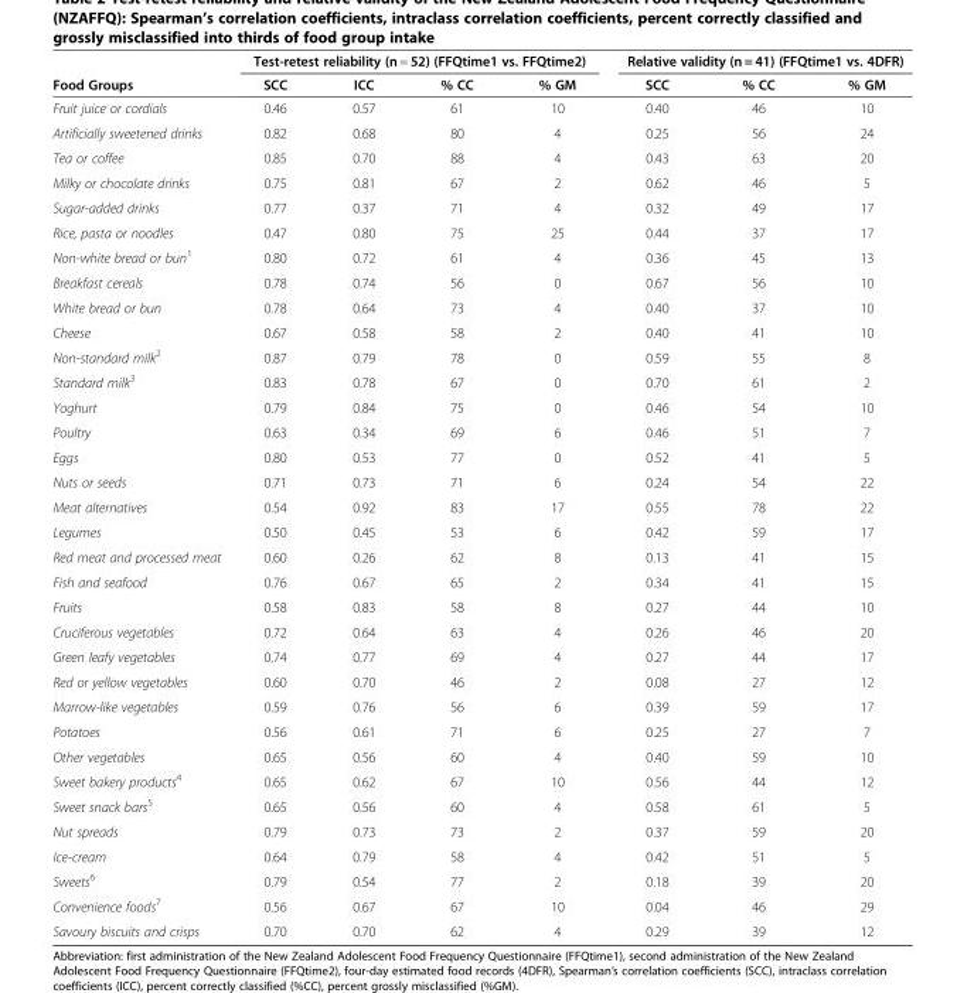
<table><thead><tr><td rowspan="2">Food Groups</td><td colspan="4">Test-retest reliability (n = 52) (FFQtime1 vs. FFQtime2)</td><td colspan="3">Relative validity (n = 41) (FFQtime1 vs. 4DFR)</td></tr><tr><td>SCC</td><td>ICC</td><td>% CC</td><td>% GM</td><td>SCC</td><td>% CC</td><td>% GM</td></tr></thead><tbody><tr><td>Fruit juice or cordials</td><td>0.46</td><td>0.57</td><td>61</td><td>10</td><td>0.40</td><td>46</td><td>10</td></tr><tr><td>Artificially sweetened drinks</td><td>0.82</td><td>0.68</td><td>80</td><td>4</td><td>0.25</td><td>56</td><td>24</td></tr><tr><td>Tea or coffee</td><td>0.85</td><td>0.70</td><td>88</td><td>4</td><td>0.43</td><td>63</td><td>20</td></tr><tr><td>Milky or chocolate drinks</td><td>0.75</td><td>0.81</td><td>67</td><td>2</td><td>0.62</td><td>46</td><td>5</td></tr><tr><td>Sugar-added drinks</td><td>0.77</td><td>0.37</td><td>71</td><td>4</td><td>0.32</td><td>49</td><td>17</td></tr><tr><td>Rice, pasta or noodles</td><td>0.47</td><td>0.80</td><td>75</td><td>25</td><td>0.44</td><td>37</td><td>17</td></tr><tr><td>Non-white bread or bun<sup>1</sup></td><td>0.80</td><td>0.72</td><td>61</td><td>4</td><td>0.36</td><td>45</td><td>13</td></tr><tr><td>Breakfast cereals</td><td>0.78</td><td>0.74</td><td>56</td><td>0</td><td>0.67</td><td>56</td><td>10</td></tr><tr><td>White bread or bun</td><td>0.78</td><td>0.64</td><td>73</td><td>4</td><td>0.40</td><td>37</td><td>10</td></tr><tr><td>Cheese</td><td>0.67</td><td>0.58</td><td>58</td><td>2</td><td>0.40</td><td>41</td><td>10</td></tr><tr><td>Non-standard milk<sup>2</sup></td><td>0.87</td><td>0.79</td><td>78</td><td>0</td><td>0.59</td><td>55</td><td>8</td></tr><tr><td>Standard milk<sup>3</sup></td><td>0.83</td><td>0.78</td><td>67</td><td>0</td><td>0.70</td><td>61</td><td>2</td></tr><tr><td>Yoghurt</td><td>0.79</td><td>0.84</td><td>75</td><td>0</td><td>0.46</td><td>54</td><td>10</td></tr><tr><td>Poultry</td><td>0.63</td><td>0.34</td><td>69</td><td>6</td><td>0.46</td><td>51</td><td>7</td></tr><tr><td>Eggs</td><td>0.80</td><td>0.53</td><td>77</td><td>0</td><td>0.52</td><td>41</td><td>5</td></tr><tr><td>Nuts or seeds</td><td>0.71</td><td>0.73</td><td>71</td><td>6</td><td>0.24</td><td>54</td><td>22</td></tr><tr><td>Meat alternatives</td><td>0.54</td><td>0.92</td><td>83</td><td>17</td><td>0.55</td><td>78</td><td>22</td></tr><tr><td>Legumes</td><td>0.50</td><td>0.45</td><td>53</td><td>6</td><td>0.42</td><td>59</td><td>17</td></tr><tr><td>Red meat and processed meat</td><td>0.60</td><td>0.26</td><td>62</td><td>8</td><td>0.13</td><td>41</td><td>15</td></tr><tr><td>Fish and seafood</td><td>0.76</td><td>0.67</td><td>65</td><td>2</td><td>0.34</td><td>41</td><td>15</td></tr><tr><td>Fruits</td><td>0.58</td><td>0.83</td><td>58</td><td>8</td><td>0.27</td><td>44</td><td>10</td></tr><tr><td>Cruciferous vegetables</td><td>0.72</td><td>0.64</td><td>63</td><td>4</td><td>0.26</td><td>46</td><td>20</td></tr><tr><td>Green leafy vegetables</td><td>0.74</td><td>0.77</td><td>69</td><td>4</td><td>0.27</td><td>44</td><td>17</td></tr><tr><td>Red or yellow vegetables</td><td>0.60</td><td>0.70</td><td>46</td><td>2</td><td>0.08</td><td>27</td><td>12</td></tr><tr><td>Marrow-like vegetables</td><td>0.59</td><td>0.76</td><td>56</td><td>6</td><td>0.39</td><td>59</td><td>17</td></tr><tr><td>Potatoes</td><td>0.56</td><td>0.61</td><td>71</td><td>6</td><td>0.25</td><td>27</td><td>7</td></tr><tr><td>Other vegetables</td><td>0.65</td><td>0.56</td><td>60</td><td>4</td><td>0.40</td><td>59</td><td>10</td></tr><tr><td>Sweet bakery products<sup>4</sup></td><td>0.65</td><td>0.62</td><td>67</td><td>10</td><td>0.56</td><td>44</td><td>12</td></tr><tr><td>Sweet snack bars<sup>5</sup></td><td>0.65</td><td>0.56</td><td>60</td><td>4</td><td>0.58</td><td>61</td><td>5</td></tr><tr><td>Nut spreads</td><td>0.79</td><td>0.73</td><td>73</td><td>2</td><td>0.37</td><td>59</td><td>20</td></tr><tr><td>Ice-cream</td><td>0.64</td><td>0.79</td><td>58</td><td>4</td><td>0.42</td><td>51</td><td>5</td></tr><tr><td>Sweets<sup>6</sup></td><td>0.79</td><td>0.54</td><td>77</td><td>2</td><td>0.18</td><td>39</td><td>20</td></tr><tr><td>Convenience foods<sup>7</sup></td><td>0.56</td><td>0.67</td><td>67</td><td>10</td><td>0.04</td><td>46</td><td>29</td></tr><tr><td>Savoury biscuits and crisps</td><td>0.70</td><td>0.70</td><td>62</td><td>4</td><td>0.29</td><td>39</td><td>12</td></tr></tbody></table>